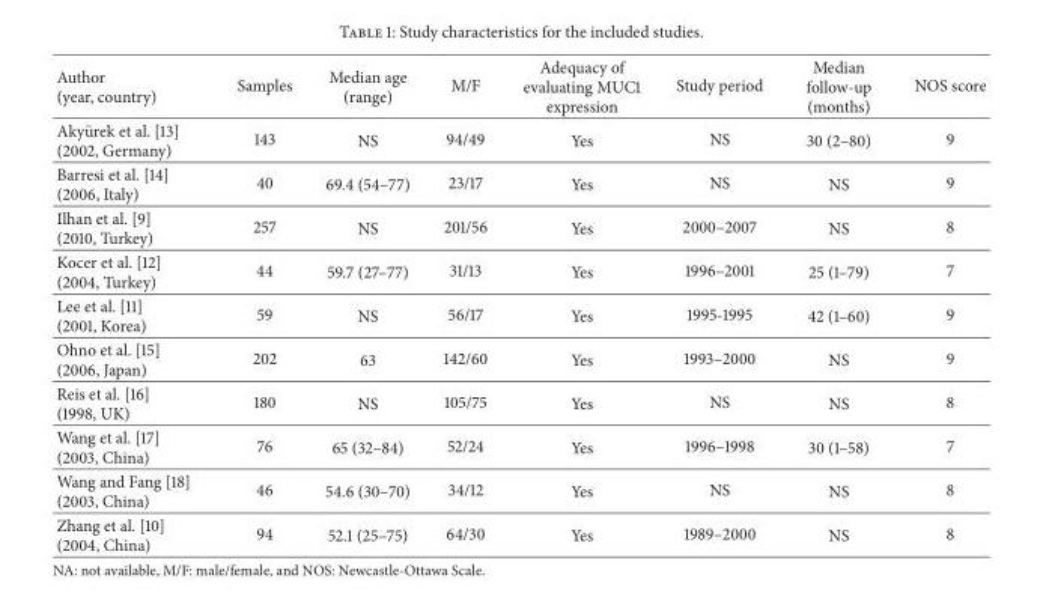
<table><thead><tr><td>Author (year, country)</td><td>Samples</td><td>Median age (range)</td><td>M/F</td><td>Adequacy of evaluating MUC1 expression</td><td>Study period</td><td>Median follow-up (months)</td><td>NOS score</td></tr></thead><tbody><tr><td>Aky¨urek et al. [13] (2002, Germany)</td><td>143</td><td>NS</td><td>94/49</td><td>Yes</td><td>NS</td><td>30 (2–80)</td><td>9</td></tr><tr><td>Barresi et al. [14] (2006, Italy)</td><td>40</td><td>69.4 (54–77)</td><td>23/17</td><td>Yes</td><td>NS</td><td>NS</td><td>9</td></tr><tr><td>Ilhan et al. [9] (2010, Turkey)</td><td>257</td><td>NS</td><td>201/56</td><td>Yes</td><td>2000–2007</td><td>NS</td><td>8</td></tr><tr><td>Kocer et al. [12] (2004, Turkey)</td><td>44</td><td>59.7 (27–77)</td><td>31/13</td><td>Yes</td><td>1996–2001</td><td>25 (1–79)</td><td>7</td></tr><tr><td>Lee et al. [11] (2001, Korea)</td><td>59</td><td>NS</td><td>56/17</td><td>Yes</td><td>1995-1995</td><td>42 (1–60)</td><td>9</td></tr><tr><td>Ohno et al. [15] (2006, Japan)</td><td>202</td><td>63</td><td>142/60</td><td>Yes</td><td>1993–2000</td><td>NS</td><td>9</td></tr><tr><td>Reis et al. [16] (1998, UK)</td><td>180</td><td>NS</td><td>105/75</td><td>Yes</td><td>NS</td><td>NS</td><td>8</td></tr><tr><td>Wang et al. [17] (2003, China)</td><td>76</td><td>65 (32–84)</td><td>52/24</td><td>Yes</td><td>1996–1998</td><td>30 (1–58)</td><td>7</td></tr><tr><td>Wang and Fang [18] (2003, China)</td><td>46</td><td>54.6 (30–70)</td><td>34/12</td><td>Yes</td><td>NS</td><td>NS</td><td>8</td></tr><tr><td>Zhang et al. [10] (2004, China)</td><td>94</td><td>52.1 (25–75)</td><td>64/30</td><td>Yes</td><td>1989–2000</td><td>NS</td><td>8</td></tr></tbody></table>